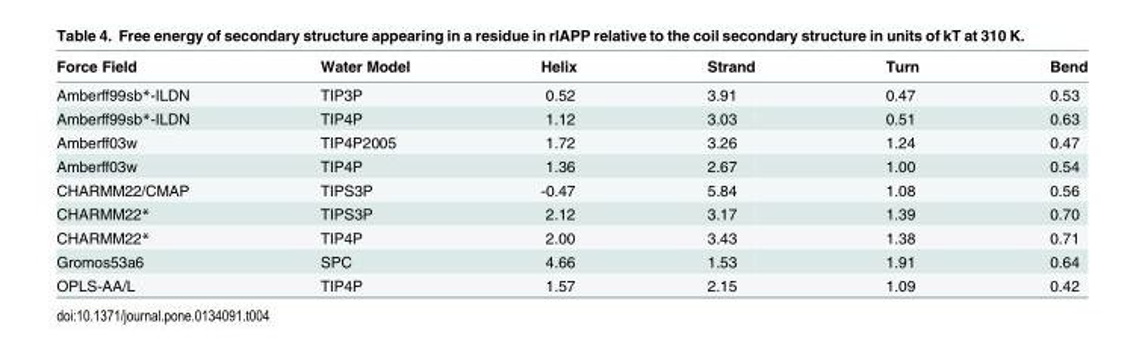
<table><thead><tr><td>Force Field</td><td>Water Model</td><td>Helix</td><td>Strand</td><td>Turn</td><td>Bend</td></tr></thead><tbody><tr><td>Amberff99sb*-ILDN</td><td>TIP3P</td><td>0.52</td><td>3.91</td><td>0.47</td><td>0.53</td></tr><tr><td>Amberff99sb*-ILDN</td><td>TIP4P</td><td>1.12</td><td>3.03</td><td>0.51</td><td>0.63</td></tr><tr><td>Amberff03w</td><td>TIP4P2005</td><td>1.72</td><td>3.26</td><td>1.24</td><td>0.47</td></tr><tr><td>Amberff03w</td><td>TIP4P</td><td>1.36</td><td>2.67</td><td>1.00</td><td>0.54</td></tr><tr><td>CHARMM22/CMAP</td><td>TIPS3P</td><td>-0.47</td><td>5.84</td><td>1.08</td><td>0.56</td></tr><tr><td>CHARMM22*</td><td>TIPS3P</td><td>2.12</td><td>3.17</td><td>1.39</td><td>0.70</td></tr><tr><td>CHARMM22*</td><td>TIP4P</td><td>2.00</td><td>3.43</td><td>1.38</td><td>0.71</td></tr><tr><td>Gromos53a6</td><td>SPC</td><td>4.66</td><td>1.53</td><td>1.91</td><td>0.64</td></tr><tr><td>OPLS-AA/L</td><td>TIP4P</td><td>1.57</td><td>2.15</td><td>1.09</td><td>0.42</td></tr></tbody></table>